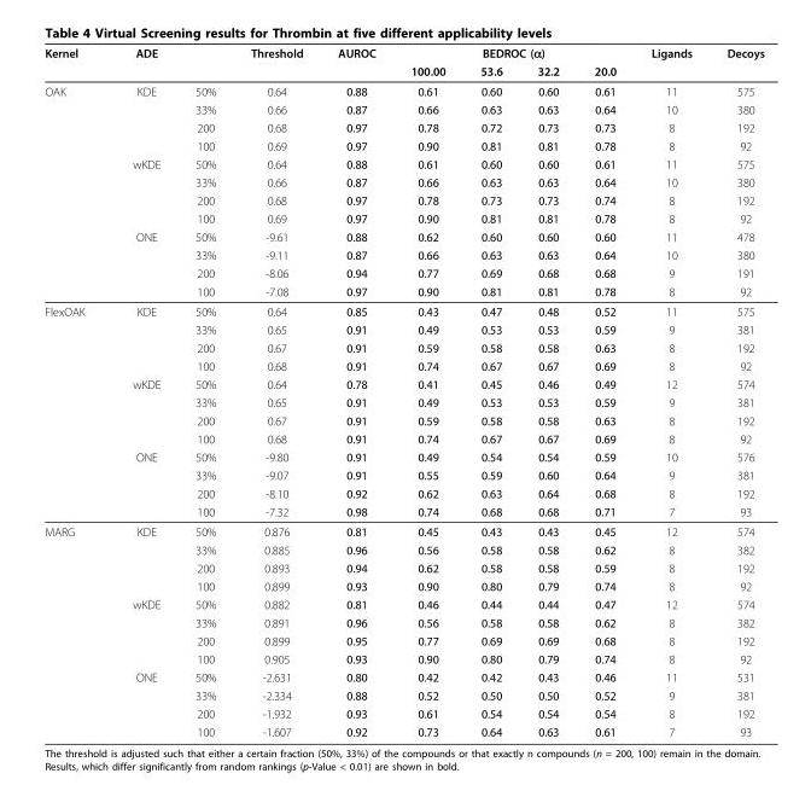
<table><thead><tr><td rowspan="2">Kernel</td><td rowspan="2">ADE</td><td rowspan="2"></td><td rowspan="2">Threshold</td><td rowspan="2">AUROC</td><td colspan="4">BEDROC (α)</td><td rowspan="2">Ligands</td><td rowspan="2">Decoys</td></tr><tr><td>100.00</td><td>53.6</td><td>32.2</td><td>20.0</td></tr></thead><tbody><tr><td rowspan="12">OAK</td><td>KDE</td><td>50%</td><td>0.64</td><td>0.88</td><td>0.61</td><td>0.60</td><td>0.60</td><td>0.61</td><td>11</td><td>575</td></tr><tr><td></td><td>33%</td><td>0.66</td><td>0.87</td><td>0.66</td><td>0.63</td><td>0.63</td><td>0.64</td><td>10</td><td>380</td></tr><tr><td></td><td>200</td><td>0.68</td><td>0.97</td><td>0.78</td><td>0.72</td><td>0.73</td><td>0.73</td><td>8</td><td>192</td></tr><tr><td></td><td>100</td><td>0.69</td><td>0.97</td><td>0.90</td><td>0.81</td><td>0.81</td><td>0.78</td><td>8</td><td>92</td></tr><tr><td>wKDE</td><td>50%</td><td>0.64</td><td>0.88</td><td>0.61</td><td>0.60</td><td>0.60</td><td>0.61</td><td>11</td><td>575</td></tr><tr><td></td><td>33%</td><td>0.66</td><td>0.87</td><td>0.66</td><td>0.63</td><td>0.63</td><td>0.64</td><td>10</td><td>380</td></tr><tr><td></td><td>200</td><td>0.68</td><td>0.97</td><td>0.78</td><td>0.73</td><td>0.73</td><td>0.74</td><td>8</td><td>192</td></tr><tr><td></td><td>100</td><td>0.69</td><td>0.97</td><td>0.90</td><td>0.81</td><td>0.81</td><td>0.78</td><td>8</td><td>92</td></tr><tr><td>ONE</td><td>50%</td><td>-9.61</td><td>0.88</td><td>0.62</td><td>0.60</td><td>0.60</td><td>0.60</td><td>11</td><td>478</td></tr><tr><td></td><td>33%</td><td>-9.11</td><td>0.87</td><td>0.66</td><td>0.63</td><td>0.63</td><td>0.64</td><td>10</td><td>380</td></tr><tr><td></td><td>200</td><td>-8.06</td><td>0.94</td><td>0.77</td><td>0.69</td><td>0.68</td><td>0.68</td><td>9</td><td>191</td></tr><tr><td></td><td>100</td><td>-7.08</td><td>0.97</td><td>0.90</td><td>0.81</td><td>0.81</td><td>0.78</td><td>8</td><td>92</td></tr><tr><td rowspan="12">FlexOAK</td><td>KDE</td><td>50%</td><td>0.64</td><td>0.85</td><td>0.43</td><td>0.47</td><td>0.48</td><td>0.52</td><td>11</td><td>575</td></tr><tr><td></td><td>33%</td><td>0.65</td><td>0.91</td><td>0.49</td><td>0.53</td><td>0.53</td><td>0.59</td><td>9</td><td>381</td></tr><tr><td></td><td>200</td><td>0.67</td><td>0.91</td><td>0.59</td><td>0.58</td><td>0.58</td><td>0.63</td><td>8</td><td>192</td></tr><tr><td></td><td>100</td><td>0.68</td><td>0.91</td><td>0.74</td><td>0.67</td><td>0.67</td><td>0.69</td><td>8</td><td>92</td></tr><tr><td>wKDE</td><td>50%</td><td>0.64</td><td>0.78</td><td>0.41</td><td>0.45</td><td>0.46</td><td>0.49</td><td>12</td><td>574</td></tr><tr><td></td><td>33%</td><td>0.65</td><td>0.91</td><td>0.49</td><td>0.53</td><td>0.53</td><td>0.59</td><td>9</td><td>381</td></tr><tr><td></td><td>200</td><td>0.67</td><td>0.91</td><td>0.59</td><td>0.58</td><td>0.58</td><td>0.63</td><td>8</td><td>192</td></tr><tr><td></td><td>100</td><td>0.68</td><td>0.91</td><td>0.74</td><td>0.67</td><td>0.67</td><td>0.69</td><td>8</td><td>92</td></tr><tr><td>ONE</td><td>50%</td><td>-9.80</td><td>0.91</td><td>0.49</td><td>0.54</td><td>0.54</td><td>0.59</td><td>10</td><td>576</td></tr><tr><td></td><td>33%</td><td>-9.07</td><td>0.91</td><td>0.55</td><td>0.59</td><td>0.60</td><td>0.64</td><td>9</td><td>381</td></tr><tr><td></td><td>200</td><td>-8.10</td><td>0.92</td><td>0.62</td><td>0.63</td><td>0.64</td><td>0.68</td><td>8</td><td>192</td></tr><tr><td></td><td>100</td><td>-7.32</td><td>0.98</td><td>0.74</td><td>0.68</td><td>0.68</td><td>0.71</td><td>7</td><td>93</td></tr><tr><td rowspan="12">MARG</td><td>KDE</td><td>50%</td><td>0.876</td><td>0.81</td><td>0.45</td><td>0.43</td><td>0.43</td><td>0.45</td><td>12</td><td>574</td></tr><tr><td></td><td>33%</td><td>0.885</td><td>0.96</td><td>0.56</td><td>0.58</td><td>0.58</td><td>0.62</td><td>8</td><td>382</td></tr><tr><td></td><td>200</td><td>0.893</td><td>0.94</td><td>0.62</td><td>0.58</td><td>0.58</td><td>0.59</td><td>8</td><td>192</td></tr><tr><td></td><td>100</td><td>0.899</td><td>0.93</td><td>0.90</td><td>0.80</td><td>0.79</td><td>0.74</td><td>8</td><td>92</td></tr><tr><td>wKDE</td><td>50%</td><td>0.882</td><td>0.81</td><td>0.46</td><td>0.44</td><td>0.44</td><td>0.47</td><td>12</td><td>574</td></tr><tr><td></td><td>33%</td><td>0.891</td><td>0.96</td><td>0.56</td><td>0.58</td><td>0.58</td><td>0.62</td><td>8</td><td>382</td></tr><tr><td></td><td>200</td><td>0.899</td><td>0.95</td><td>0.77</td><td>0.69</td><td>0.69</td><td>0.68</td><td>8</td><td>192</td></tr><tr><td></td><td>100</td><td>0.905</td><td>0.93</td><td>0.90</td><td>0.80</td><td>0.79</td><td>0.74</td><td>8</td><td>92</td></tr><tr><td>ONE</td><td>50%</td><td>-2.631</td><td>0.80</td><td>0.42</td><td>0.42</td><td>0.43</td><td>0.46</td><td>11</td><td>531</td></tr><tr><td></td><td>33%</td><td>-2.334</td><td>0.88</td><td>0.52</td><td>0.50</td><td>0.50</td><td>0.52</td><td>9</td><td>381</td></tr><tr><td></td><td>200</td><td>-1.932</td><td>0.93</td><td>0.61</td><td>0.54</td><td>0.54</td><td>0.54</td><td>8</td><td>192</td></tr><tr><td></td><td>100</td><td>-1.607</td><td>0.92</td><td>0.73</td><td>0.64</td><td>0.63</td><td>0.61</td><td>7</td><td>93</td></tr></tbody></table>